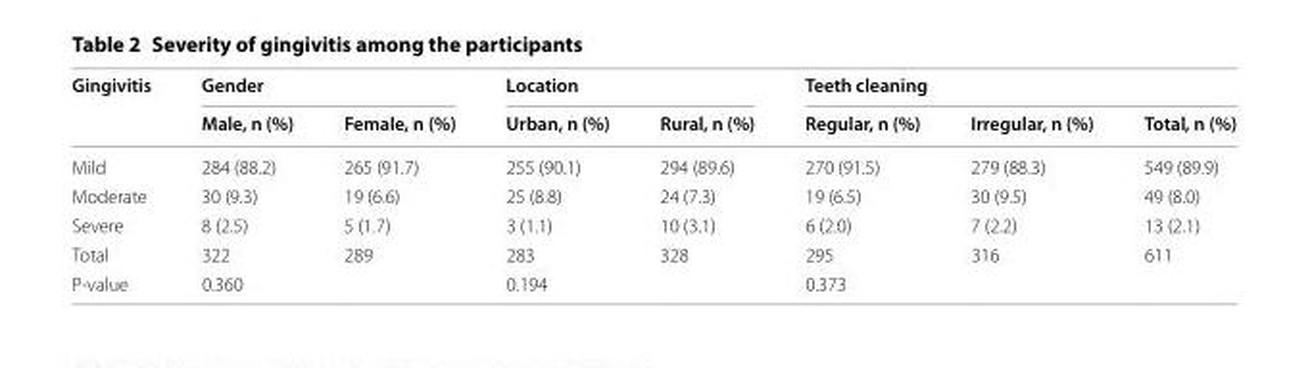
<table><thead><tr><td rowspan="2">Gingivitis</td><td colspan="2">Gender</td><td colspan="2">Location</td><td colspan="3">Teeth cleaning</td></tr><tr><td>Male, n (%)</td><td>Female, n (%)</td><td>Urban, n (%)</td><td>Rural, n (%)</td><td>Regular, n (%)</td><td>Irregular, n (%)</td><td>Total, n (%)</td></tr></thead><tbody><tr><td>Mild</td><td>284 (88.2)</td><td>265 (91.7)</td><td>255 (90.1)</td><td>294 (89.6)</td><td>270 (91.5)</td><td>279 (88.3)</td><td>549 (89.9)</td></tr><tr><td>Moderate</td><td>30 (9.3)</td><td>19 (6.6)</td><td>25 (8.8)</td><td>24 (7.3)</td><td>19 (6.5)</td><td>30 (9.5)</td><td>49 (8.0)</td></tr><tr><td>Severe</td><td>8 (2.5)</td><td>5 (1.7)</td><td>3 (1.1)</td><td>10 (3.1)</td><td>6 (2.0)</td><td>7 (2.2)</td><td>13 (2.1)</td></tr><tr><td>Total</td><td>322</td><td>289</td><td>283</td><td>328</td><td>295</td><td>316</td><td>611</td></tr><tr><td>P-value</td><td colspan="2">0.360</td><td colspan="2">0.194</td><td colspan="3">0.373</td></tr></tbody></table>